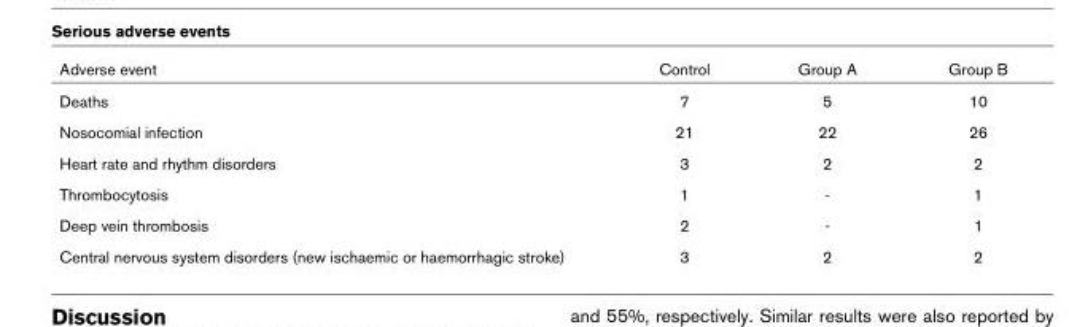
<table><thead><tr><td>Adverse event</td><td>Control</td><td>Group A</td><td>Group B</td></tr></thead><tbody><tr><td>Deaths</td><td>7</td><td>5</td><td>10</td></tr><tr><td>Nosocomial infection</td><td>21</td><td>22</td><td>26</td></tr><tr><td>Heart rate and rhythm disorders</td><td>3</td><td>2</td><td>2</td></tr><tr><td>Thrombocytosis</td><td>1</td><td>-</td><td>1</td></tr><tr><td>Deep vein thrombosis</td><td>2</td><td>-</td><td>1</td></tr><tr><td>Central nervous system disorders (new ischaemic or haemorrhagic stroke)</td><td>3</td><td>2</td><td>2</td></tr></tbody></table>